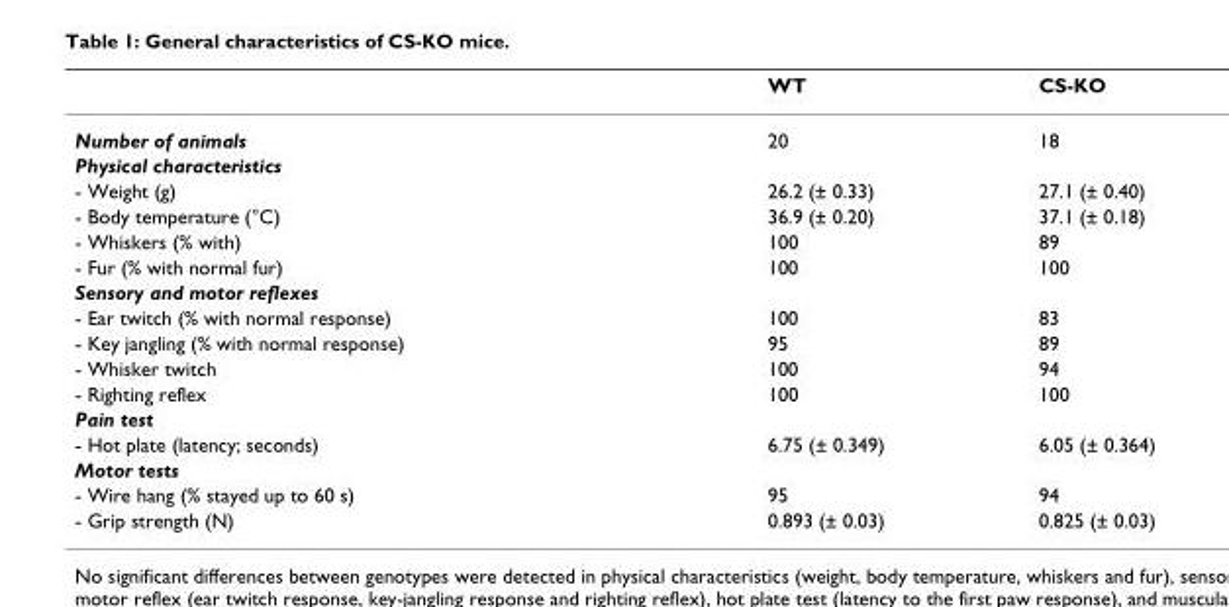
<table><thead><tr><td></td><td>WT</td><td>CS-KO</td></tr></thead><tbody><tr><td>Number of animals</td><td>20</td><td>18</td></tr><tr><td colspan="3">Physical characteristics</td></tr><tr><td>- Weight (g)</td><td>26.2 (± 0.33)</td><td>27.1 (± 0.40)</td></tr><tr><td>- Body temperature (°C)</td><td>36.9 (± 0.20)</td><td>37.1 (± 0.18)</td></tr><tr><td>- Whiskers (% with)</td><td>100</td><td>89</td></tr><tr><td>- Fur (% with normal fur)</td><td>100</td><td>100</td></tr><tr><td colspan="3">Sensory and motor reflexes</td></tr><tr><td>- Ear twitch (% with normal response)</td><td>100</td><td>83</td></tr><tr><td>- Key jangling (% with normal response)</td><td>95</td><td>89</td></tr><tr><td>- Whisker twitch</td><td>100</td><td>94</td></tr><tr><td>- Righting reflex</td><td>100</td><td>100</td></tr><tr><td colspan="3">Pain test</td></tr><tr><td>- Hot plate (latency; seconds)</td><td>6.75 (± 0.349)</td><td>6.05 (± 0.364)</td></tr><tr><td colspan="3">Motor tests</td></tr><tr><td>- Wire hang (% stayed up to 60 s)</td><td>95</td><td>94</td></tr><tr><td>- Grip strength (N)</td><td>0.893 (± 0.03)</td><td>0.825 (± 0.03)</td></tr></tbody></table>